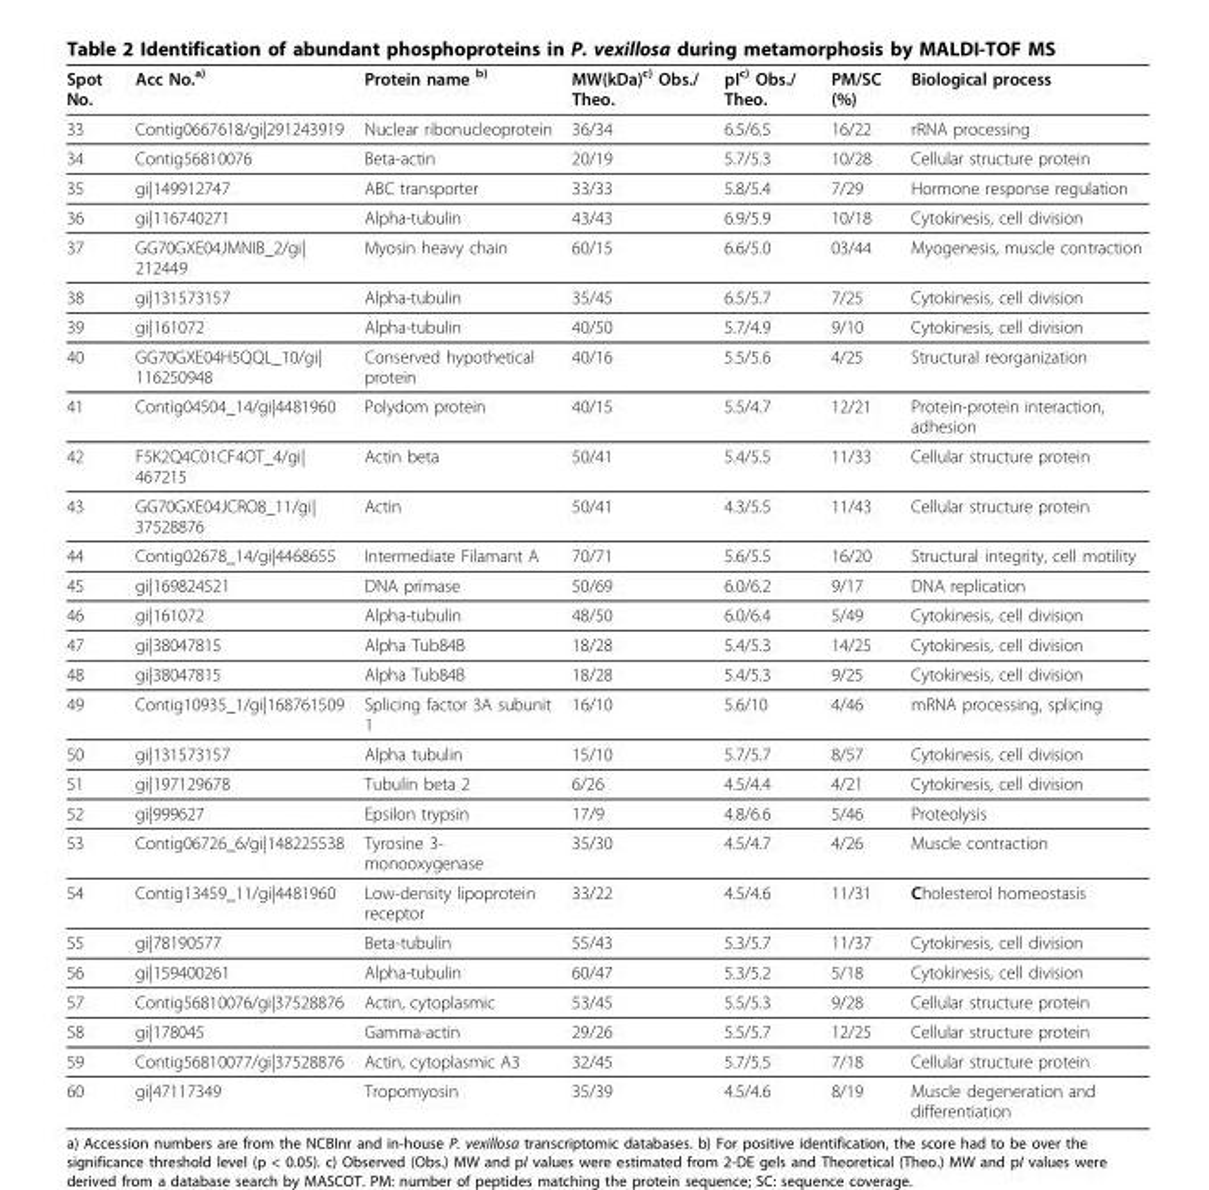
<table><thead><tr><td>Spot No.</td><td>Acc No.<sup>a)</sup></td><td>Protein name <sup>b)</sup></td><td>MW(kDa)<sup>c)</sup> Obs./ Theo.</td><td>pI<sup>c)</sup> Obs./ Theo.</td><td>PM/SC (%)</td><td>Biological process</td></tr></thead><tbody><tr><td>33</td><td>Contig0667618/gi|291243919</td><td>Nuclear ribonucleoprotein</td><td>36/34</td><td>6.5/6.5</td><td>16/22</td><td>rRNA processing</td></tr><tr><td>34</td><td>Contig56810076</td><td>Beta-actin</td><td>20/19</td><td>5.7/5.3</td><td>10/28</td><td>Cellular structure protein</td></tr><tr><td>35</td><td>gi|149912747</td><td>ABC transporter</td><td>33/33</td><td>5.8/5.4</td><td>7/29</td><td>Hormone response regulation</td></tr><tr><td>36</td><td>gi|116740271</td><td>Alpha-tubulin</td><td>43/43</td><td>6.9/5.9</td><td>10/18</td><td>Cytokinesis, cell division</td></tr><tr><td>37</td><td>GG70GXE04JMNIB_2/gi| 212449</td><td>Myosin heavy chain</td><td>60/15</td><td>6.6/5.0</td><td>03/44</td><td>Myogenesis, muscle contraction</td></tr><tr><td>38</td><td>gi|131573157</td><td>Alpha-tubulin</td><td>35/45</td><td>6.5/5.7</td><td>7/25</td><td>Cytokinesis, cell division</td></tr><tr><td>39</td><td>gi|161072</td><td>Alpha-tubulin</td><td>40/50</td><td>5.7/4.9</td><td>9/10</td><td>Cytokinesis, cell division</td></tr><tr><td>40</td><td>GG70GXE04H5QQL_10/gi| 116250948</td><td>Conserved hypothetical protein</td><td>40/16</td><td>5.5/5.6</td><td>4/25</td><td>Structural reorganization</td></tr><tr><td>41</td><td>Contig04504_14/gi|4481960</td><td>Polydom protein</td><td>40/15</td><td>5.5/4.7</td><td>12/21</td><td>Protein-protein interaction, adhesion</td></tr><tr><td>42</td><td>F5K2Q4C01CF4OT_4/gi| 467215</td><td>Actin beta</td><td>50/41</td><td>5.4/5.5</td><td>11/33</td><td>Cellular structure protein</td></tr><tr><td>43</td><td>GG70GXE04JCRO8_11/gi| 37528876</td><td>Actin</td><td>50/41</td><td>4.3/5.5</td><td>11/43</td><td>Cellular structure protein</td></tr><tr><td>44</td><td>Contig02678_14/gi|4468655</td><td>Intermediate Filamant A</td><td>70/71</td><td>5.6/5.5</td><td>16/20</td><td>Structural integrity, cell motility</td></tr><tr><td>45</td><td>gi|169824521</td><td>DNA primase</td><td>50/69</td><td>6.0/6.2</td><td>9/17</td><td>DNA replication</td></tr><tr><td>46</td><td>gi|161072</td><td>Alpha-tubulin</td><td>48/50</td><td>6.0/6.4</td><td>5/49</td><td>Cytokinesis, cell division</td></tr><tr><td>47</td><td>gi|38047815</td><td>Alpha Tub84B</td><td>18/28</td><td>5.4/5.3</td><td>14/25</td><td>Cytokinesis, cell division</td></tr><tr><td>48</td><td>gi|38047815</td><td>Alpha Tub84B</td><td>18/28</td><td>5.4/5.3</td><td>9/25</td><td>Cytokinesis, cell division</td></tr><tr><td>49</td><td>Contig10935_1/gi|168761509</td><td>Splicing factor 3A subunit 1</td><td>16/10</td><td>5.6/10</td><td>4/46</td><td>mRNA processing, splicing</td></tr><tr><td>50</td><td>gi|131573157</td><td>Alpha tubulin</td><td>15/10</td><td>5.7/5.7</td><td>8/57</td><td>Cytokinesis, cell division</td></tr><tr><td>51</td><td>gi|197129678</td><td>Tubulin beta 2</td><td>6/26</td><td>4.5/4.4</td><td>4/21</td><td>Cytokinesis, cell division</td></tr><tr><td>52</td><td>gi|999627</td><td>Epsilon trypsin</td><td>17/9</td><td>4.8/6.6</td><td>5/46</td><td>Proteolysis</td></tr><tr><td>53</td><td>Contig06726_6/gi|148225538</td><td>Tyrosine 3- monooxygenase</td><td>35/30</td><td>4.5/4.7</td><td>4/26</td><td>Muscle contraction</td></tr><tr><td>54</td><td>Contig13459_11/gi|4481960</td><td>Low-density lipoprotein receptor</td><td>33/22</td><td>4.5/4.6</td><td>11/31</td><td>Cholesterol homeostasis</td></tr><tr><td>55</td><td>gi|78190577</td><td>Beta-tubulin</td><td>55/43</td><td>5.3/5.7</td><td>11/37</td><td>Cytokinesis, cell division</td></tr><tr><td>56</td><td>gi|159400261</td><td>Alpha-tubulin</td><td>60/47</td><td>5.3/5.2</td><td>5/18</td><td>Cytokinesis, cell division</td></tr><tr><td>57</td><td>Contig56810076/gi|37528876</td><td>Actin, cytoplasmic</td><td>53/45</td><td>5.5/5.3</td><td>9/28</td><td>Cellular structure protein</td></tr><tr><td>58</td><td>gi|178045</td><td>Gamma-actin</td><td>29/26</td><td>5.5/5.7</td><td>12/25</td><td>Cellular structure protein</td></tr><tr><td>59</td><td>Contig56810077/gi|37528876</td><td>Actin, cytoplasmic A3</td><td>32/45</td><td>5.7/5.5</td><td>7/18</td><td>Cellular structure protein</td></tr><tr><td>60</td><td>gi|47117349</td><td>Tropomyosin</td><td>35/39</td><td>4.5/4.6</td><td>8/19</td><td>Muscle degeneration and differentiation</td></tr></tbody></table>